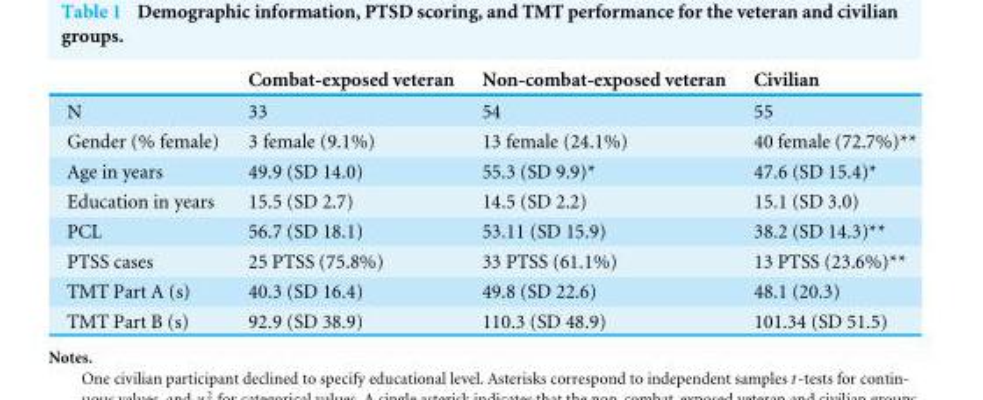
<table><thead><tr><td></td><td>Combat-exposed veteran</td><td>Non-combat-exposed veteran</td><td>Civilian</td></tr></thead><tbody><tr><td>N</td><td>33</td><td>54</td><td>55</td></tr><tr><td>Gender (% female)</td><td>3 female (9.1%)</td><td>13 female (24.1%)</td><td>40 female (72.7%)**</td></tr><tr><td>Age in years</td><td>49.9 (SD 14.0)</td><td>55.3 (SD 9.9)*</td><td>47.6 (SD 15.4)*</td></tr><tr><td>Education in years</td><td>15.5 (SD 2.7)</td><td>14.5 (SD 2.2)</td><td>15.1 (SD 3.0)</td></tr><tr><td>PCL</td><td>56.7 (SD 18.1)</td><td>53.11 (SD 15.9)</td><td>38.2 (SD 14.3)**</td></tr><tr><td>PTSS cases</td><td>25 PTSS (75.8%)</td><td>33 PTSS (61.1%)</td><td>13 PTSS (23.6%)**</td></tr><tr><td>TMT Part A (s)</td><td>40.3 (SD 16.4)</td><td>49.8 (SD 22.6)</td><td>48.1 (20.3)</td></tr><tr><td>TMT Part B (s)</td><td>92.9 (SD 38.9)</td><td>110.3 (SD 48.9)</td><td>101.34 (SD 51.5)</td></tr></tbody></table>